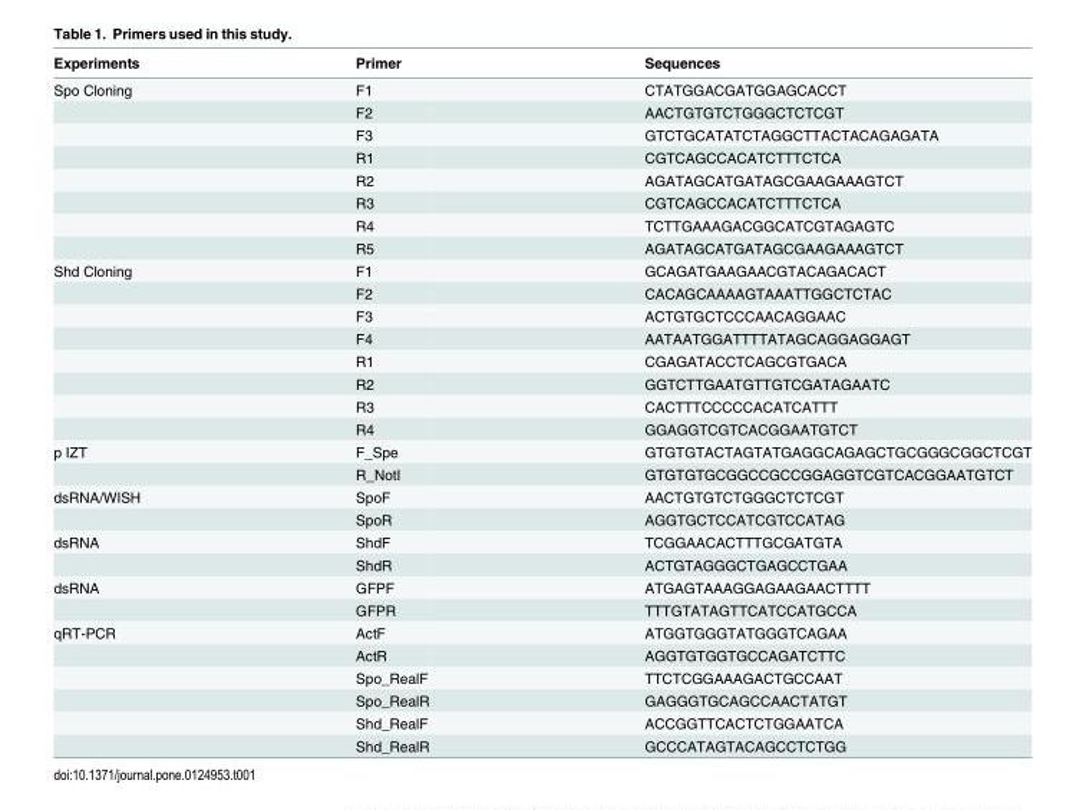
<table><thead><tr><td>Experiments</td><td>Primer</td><td>Sequences</td></tr></thead><tbody><tr><td rowspan="8">Spo Cloning</td><td>F1</td><td>CTATGGACGATGGAGCACCT</td></tr><tr><td>F2</td><td>AACTGTGTCTGGGCTCTCGT</td></tr><tr><td>F3</td><td>GTCTGCATATCTAGGCTTACTACAGAGATA</td></tr><tr><td>R1</td><td>CGTCAGCCACATCTTTCTCA</td></tr><tr><td>R2</td><td>AGATAGCATGATAGCGAAGAAAGTCT</td></tr><tr><td>R3</td><td>CGTCAGCCACATCTTTCTCA</td></tr><tr><td>R4</td><td>TCTTGAAAGACGGCATCGTAGAGTC</td></tr><tr><td>R5</td><td>AGATAGCATGATAGCGAAGAAAGTCT</td></tr><tr><td rowspan="8">Shd Cloning</td><td>F1</td><td>GCAGATGAAGAACGTACAGACACT</td></tr><tr><td>F2</td><td>CACAGCAAAAGTAAATTGGCTCTAC</td></tr><tr><td>F3</td><td>ACTGTGCTCCCAACAGGAAC</td></tr><tr><td>F4</td><td>AATAATGGATTTTATAGCAGGAGGAGT</td></tr><tr><td>R1</td><td>CGAGATACCTCAGCGTGACA</td></tr><tr><td>R2</td><td>GGTCTTGAATGTTGTCGATAGAATC</td></tr><tr><td>R3</td><td>CACTTTCCCCCACATCATTT</td></tr><tr><td>R4</td><td>GGAGGTCGTCACGGAATGTCT</td></tr><tr><td rowspan="2">p IZT</td><td>F_Spe</td><td>GTGTGTACTAGTATGAGGCAGAGCTGCGGGCGGCTCGT</td></tr><tr><td>R_NotI</td><td>GTGTGTGCGGCCGCCGGAGGTCGTCACGGAATGTCT</td></tr><tr><td rowspan="2">dsRNA/WISH</td><td>SpoF</td><td>AACTGTGTCTGGGCTCTCGT</td></tr><tr><td>SpoR</td><td>AGGTGCTCCATCGTCCATAG</td></tr><tr><td rowspan="2">dsRNA</td><td>ShdF</td><td>TCGGAACACTTTGCGATGTA</td></tr><tr><td>ShdR</td><td>ACTGTAGGGCTGAGCCTGAA</td></tr><tr><td rowspan="2">dsRNA</td><td>GFPF</td><td>ATGAGTAAAGGAGAAGAACTTTT</td></tr><tr><td>GFPR</td><td>TTTGTATAGTTCATCCATGCCA</td></tr><tr><td rowspan="6">qRT-PCR</td><td>ActF</td><td>ATGGTGGGTATGGGTCAGAA</td></tr><tr><td>ActR</td><td>AGGTGTGGTGCCAGATCTTC</td></tr><tr><td>Spo_RealF</td><td>TTCTCGGAAAGACTGCCAAT</td></tr><tr><td>Spo_RealR</td><td>GAGGGTGCAGCCAACTATGT</td></tr><tr><td>Shd_RealF</td><td>ACCGGTTCACTCTGGAATCA</td></tr><tr><td>Shd_RealR</td><td>GCCCATAGTACAGCCTCTGG</td></tr></tbody></table>